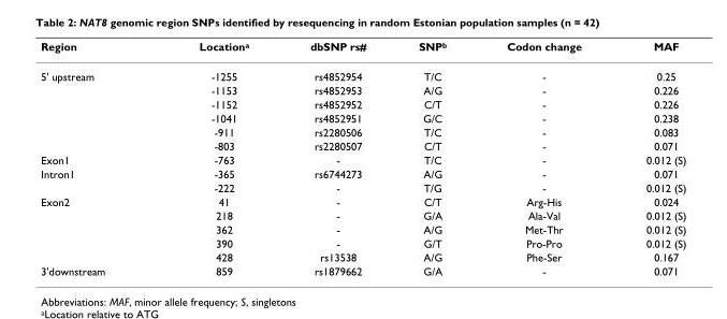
<table><thead><tr><td>Region</td><td>Location<sup>a</sup></td><td>dbSNP rs#</td><td>SNP<sup>b</sup></td><td>Codon change</td><td>MAF</td></tr></thead><tbody><tr><td rowspan="6">5&#x27; upstream</td><td>-1255</td><td>rs4852954</td><td>T/C</td><td>-</td><td>0.25</td></tr><tr><td>-1153</td><td>rs4852953</td><td>A/G</td><td>-</td><td>0.226</td></tr><tr><td>-1152</td><td>rs4852952</td><td>C/T</td><td>-</td><td>0.226</td></tr><tr><td>-1041</td><td>rs4852951</td><td>G/C</td><td>-</td><td>0.238</td></tr><tr><td>-911</td><td>rs2280506</td><td>T/C</td><td>-</td><td>0.083</td></tr><tr><td>-803</td><td>rs2280507</td><td>C/T</td><td>-</td><td>0.071</td></tr><tr><td>Exon1</td><td>-763</td><td>-</td><td>T/C</td><td>-</td><td>0.012 (S)</td></tr><tr><td rowspan="2">Intron1</td><td>-365</td><td>rs6744273</td><td>A/G</td><td>-</td><td>0.071</td></tr><tr><td>-222</td><td>-</td><td>T/G</td><td>-</td><td>0.012 (S)</td></tr><tr><td rowspan="5">Exon2</td><td>41</td><td>-</td><td>C/T</td><td>Arg-His</td><td>0.024</td></tr><tr><td>218</td><td>-</td><td>G/A</td><td>Ala-Val</td><td>0.012 (S)</td></tr><tr><td>362</td><td>-</td><td>A/G</td><td>Met-Thr</td><td>0.012 (S)</td></tr><tr><td>390</td><td>-</td><td>G/T</td><td>Pro-Pro</td><td>0.012 (S)</td></tr><tr><td>428</td><td>rs13538</td><td>A/G</td><td>Phe-Ser</td><td>0.167</td></tr><tr><td>3&#x27;downstream</td><td>859</td><td>rs1879662</td><td>G/A</td><td>-</td><td>0.071</td></tr></tbody></table>